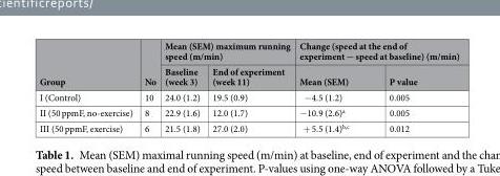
<table><thead><tr><td rowspan="2">Group</td><td rowspan="2">No</td><td colspan="2">Mean (SEM) maximum running speed (m/min)</td><td colspan="2">Change (speed at the end of experiment − speed at baseline) (m/min)</td></tr><tr><td>Baseline (week 3)</td><td>End of experiment (week 11)</td><td>Mean (SEM)</td><td>P value</td></tr></thead><tbody><tr><td>I (Control)</td><td>10</td><td>24.0 (1.2)</td><td>19.5 (0.9)</td><td>−4.5 (1.2)</td><td>0.005</td></tr><tr><td>II (50 ppmF, no-exercise)</td><td>8</td><td>22.9 (1.6)</td><td>12.0 (1.7)</td><td>−10.9 (2.6)<sup>a</sup></td><td>0.005</td></tr><tr><td>III (50 ppmF, exercise)</td><td>6</td><td>21.5 (1.8)</td><td>27.0 (2.0)</td><td>+ 5.5 (1.4)<sup>b,c</sup></td><td>0.012</td></tr></tbody></table>